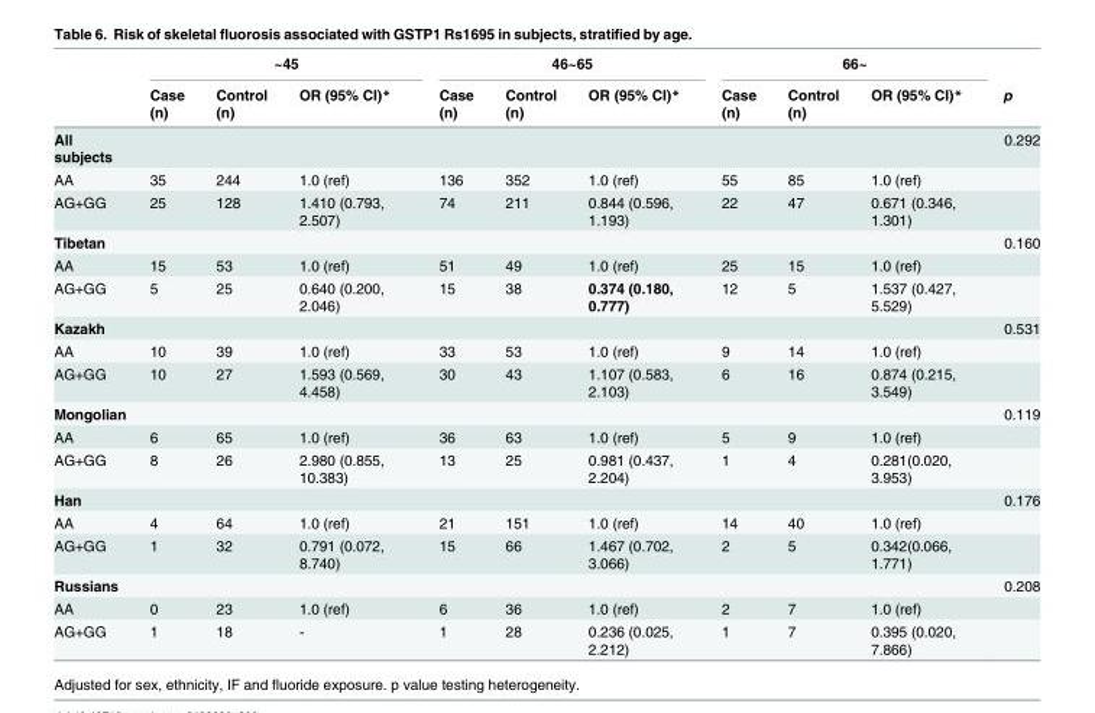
<table><thead><tr><td rowspan="2"></td><td colspan="3">~45</td><td colspan="3">46~65</td><td colspan="3">66~</td><td rowspan="2">p</td></tr><tr><td>Case (n)</td><td>Control (n)</td><td>OR (95% CI)*</td><td>Case (n)</td><td>Control (n)</td><td>OR (95% CI)*</td><td>Case (n)</td><td>Control (n)</td><td>OR (95% CI)*</td></tr></thead><tbody><tr><td>All subjects</td><td></td><td></td><td></td><td></td><td></td><td></td><td></td><td></td><td></td><td>0.292</td></tr><tr><td>AA</td><td>35</td><td>244</td><td>1.0 (ref)</td><td>136</td><td>352</td><td>1.0 (ref)</td><td>55</td><td>85</td><td>1.0 (ref)</td><td></td></tr><tr><td>AG+GG</td><td>25</td><td>128</td><td>1.410 (0.793, 2.507)</td><td>74</td><td>211</td><td>0.844 (0.596, 1.193)</td><td>22</td><td>47</td><td>0.671 (0.346, 1.301)</td><td></td></tr><tr><td>Tibetan</td><td></td><td></td><td></td><td></td><td></td><td></td><td></td><td></td><td></td><td>0.160</td></tr><tr><td>AA</td><td>15</td><td>53</td><td>1.0 (ref)</td><td>51</td><td>49</td><td>1.0 (ref)</td><td>25</td><td>15</td><td>1.0 (ref)</td><td></td></tr><tr><td>AG+GG</td><td>5</td><td>25</td><td>0.640 (0.200, 2.046)</td><td>15</td><td>38</td><td>0.374 (0.180, 0.777)</td><td>12</td><td>5</td><td>1.537 (0.427, 5.529)</td><td></td></tr><tr><td>Kazakh</td><td></td><td></td><td></td><td></td><td></td><td></td><td></td><td></td><td></td><td>0.531</td></tr><tr><td>AA</td><td>10</td><td>39</td><td>1.0 (ref)</td><td>33</td><td>53</td><td>1.0 (ref)</td><td>9</td><td>14</td><td>1.0 (ref)</td><td></td></tr><tr><td>AG+GG</td><td>10</td><td>27</td><td>1.593 (0.569, 4.458)</td><td>30</td><td>43</td><td>1.107 (0.583, 2.103)</td><td>6</td><td>16</td><td>0.874 (0.215, 3.549)</td><td></td></tr><tr><td>Mongolian</td><td></td><td></td><td></td><td></td><td></td><td></td><td></td><td></td><td></td><td>0.119</td></tr><tr><td>AA</td><td>6</td><td>65</td><td>1.0 (ref)</td><td>36</td><td>63</td><td>1.0 (ref)</td><td>5</td><td>9</td><td>1.0 (ref)</td><td></td></tr><tr><td>AG+GG</td><td>8</td><td>26</td><td>2.980 (0.855, 10.383)</td><td>13</td><td>25</td><td>0.981 (0.437, 2.204)</td><td>1</td><td>4</td><td>0.281(0.020, 3.953)</td><td></td></tr><tr><td>Han</td><td></td><td></td><td></td><td></td><td></td><td></td><td></td><td></td><td></td><td>0.176</td></tr><tr><td>AA</td><td>4</td><td>64</td><td>1.0 (ref)</td><td>21</td><td>151</td><td>1.0 (ref)</td><td>14</td><td>40</td><td>1.0 (ref)</td><td></td></tr><tr><td>AG+GG</td><td>1</td><td>32</td><td>0.791 (0.072, 8.740)</td><td>15</td><td>66</td><td>1.467 (0.702, 3.066)</td><td>2</td><td>5</td><td>0.342(0.066, 1.771)</td><td></td></tr><tr><td>Russians</td><td></td><td></td><td></td><td></td><td></td><td></td><td></td><td></td><td></td><td>0.208</td></tr><tr><td>AA</td><td>0</td><td>23</td><td>1.0 (ref)</td><td>6</td><td>36</td><td>1.0 (ref)</td><td>2</td><td>7</td><td>1.0 (ref)</td><td></td></tr><tr><td>AG+GG</td><td>1</td><td>18</td><td>-</td><td>1</td><td>28</td><td>0.236 (0.025, 2.212)</td><td>1</td><td>7</td><td>0.395 (0.020, 7.866)</td><td></td></tr></tbody></table>